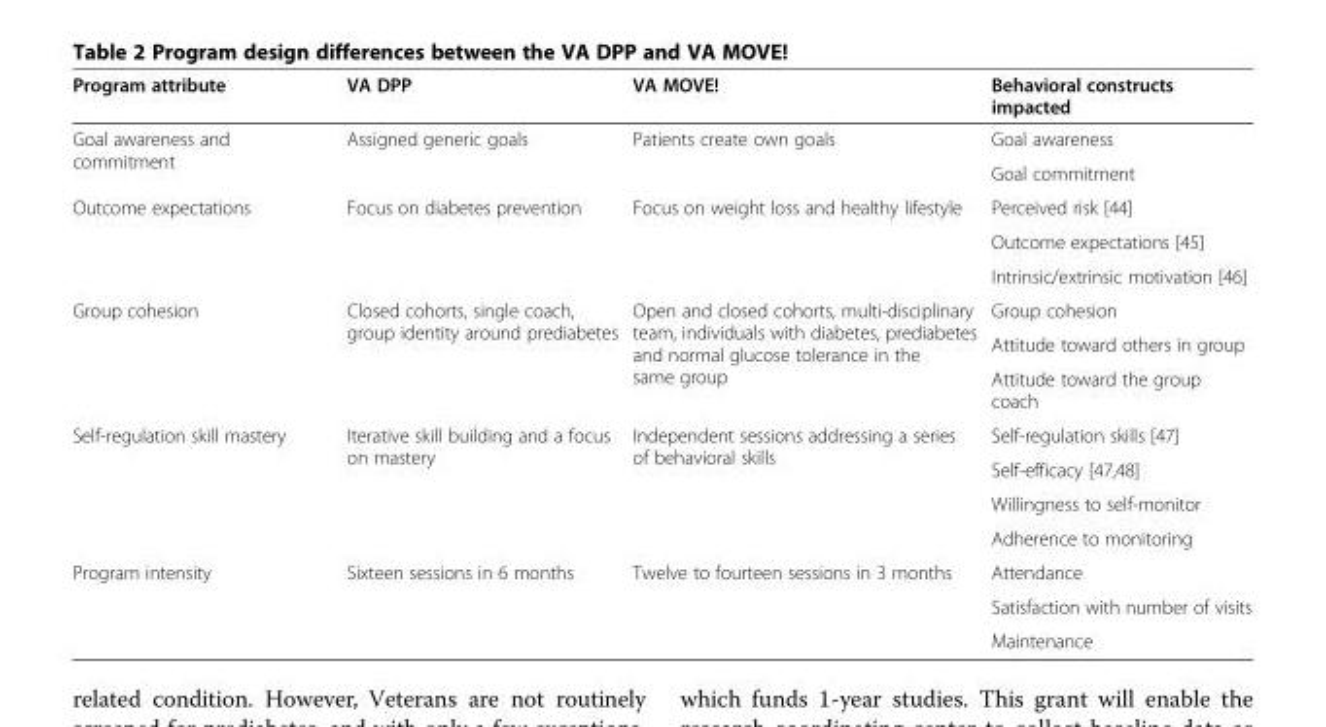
<table><thead><tr><td>Program attribute</td><td>VA DPP</td><td>VA MOVE!</td><td>Behavioral constructs impacted</td></tr></thead><tbody><tr><td rowspan="2">Goal awareness and commitment</td><td rowspan="2">Assigned generic goals</td><td rowspan="2">Patients create own goals</td><td>Goal awareness</td></tr><tr><td>Goal commitment</td></tr><tr><td rowspan="3">Outcome expectations</td><td rowspan="3">Focus on diabetes prevention</td><td rowspan="3">Focus on weight loss and healthy lifestyle</td><td>Perceived risk [44]</td></tr><tr><td>Outcome expectations [45]</td></tr><tr><td>Intrinsic/extrinsic motivation [46]</td></tr><tr><td rowspan="3">Group cohesion</td><td rowspan="3">Closed cohorts, single coach, group identity around prediabetes</td><td rowspan="3">Open and closed cohorts, multi-disciplinary team, individuals with diabetes, prediabetes and normal glucose tolerance in the same group</td><td>Group cohesion</td></tr><tr><td>Attitude toward others in group</td></tr><tr><td>Attitude toward the group coach</td></tr><tr><td rowspan="4">Self-regulation skill mastery</td><td rowspan="4">Iterative skill building and a focus on mastery</td><td rowspan="4">Independent sessions addressing a series of behavioral skills</td><td>Self-regulation skills [47]</td></tr><tr><td>Self-efficacy [47,48]</td></tr><tr><td>Willingness to self-monitor</td></tr><tr><td>Adherence to monitoring</td></tr><tr><td rowspan="3">Program intensity</td><td rowspan="3">Sixteen sessions in 6 months</td><td rowspan="3">Twelve to fourteen sessions in 3 months</td><td>Attendance</td></tr><tr><td>Satisfaction with number of visits</td></tr><tr><td>Maintenance</td></tr></tbody></table>